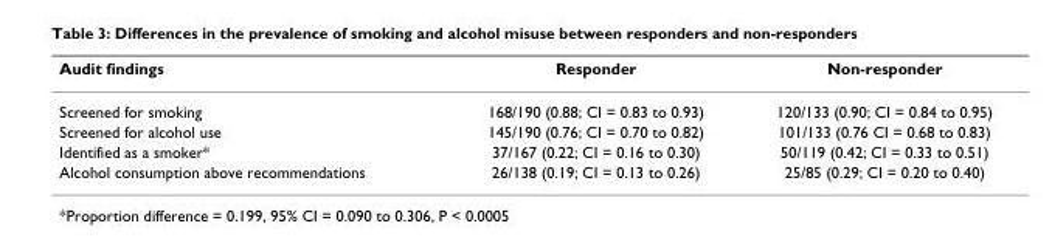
<table><thead><tr><td>Audit findings</td><td>Responder</td><td>Non-responder</td></tr></thead><tbody><tr><td>Screened for smoking</td><td>168/190 (0.88; CI = 0.83 to 0.93)</td><td>120/133 (0.90; CI = 0.84 to 0.95)</td></tr><tr><td>Screened for alcohol use</td><td>145/190 (0.76; CI = 0.70 to 0.82)</td><td>101/133 (0.76 CI = 0.68 to 0.83)</td></tr><tr><td>Identified as a smoker*</td><td>37/167 (0.22; CI = 0.16 to 0.30)</td><td>50/119 (0.42; CI = 0.33 to 0.51)</td></tr><tr><td>Alcohol consumption above recommendations</td><td>26/138 (0.19; CI = 0.13 to 0.26)</td><td>25/85 (0.29; CI = 0.20 to 0.40)</td></tr></tbody></table>